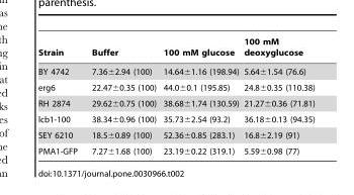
<table><thead><tr><td>Strain</td><td>Buffer</td><td>100 mM glucose</td><td>100 mM deoxyglucose</td></tr></thead><tbody><tr><td>BY 4742</td><td>7.36±2.94 (100)</td><td>14.64±1.16 (198.94)</td><td>5.64±1.54 (76.6)</td></tr><tr><td>erg6</td><td>22.47±0.35 (100)</td><td>44.0±0.1 (195.85)</td><td>24.8±0.35 (110.38)</td></tr><tr><td>RH 2874</td><td>29.62±0.75 (100)</td><td>38.68±1.74 (130.59)</td><td>21.27±0.36 (71.81)</td></tr><tr><td>lcb1-100</td><td>38.34±0.96 (100)</td><td>35.73±2.54 (93.2)</td><td>36.18±0.13 (94.35)</td></tr><tr><td>SEY 6210</td><td>18.5±0.89 (100)</td><td>52.36±0.85 (283.1)</td><td>16.8±2.19 (91)</td></tr><tr><td>PMA1-GFP</td><td>7.27±1.68 (100)</td><td>23.19±0.22 (319.1)</td><td>5.59±0.98 (77)</td></tr></tbody></table>